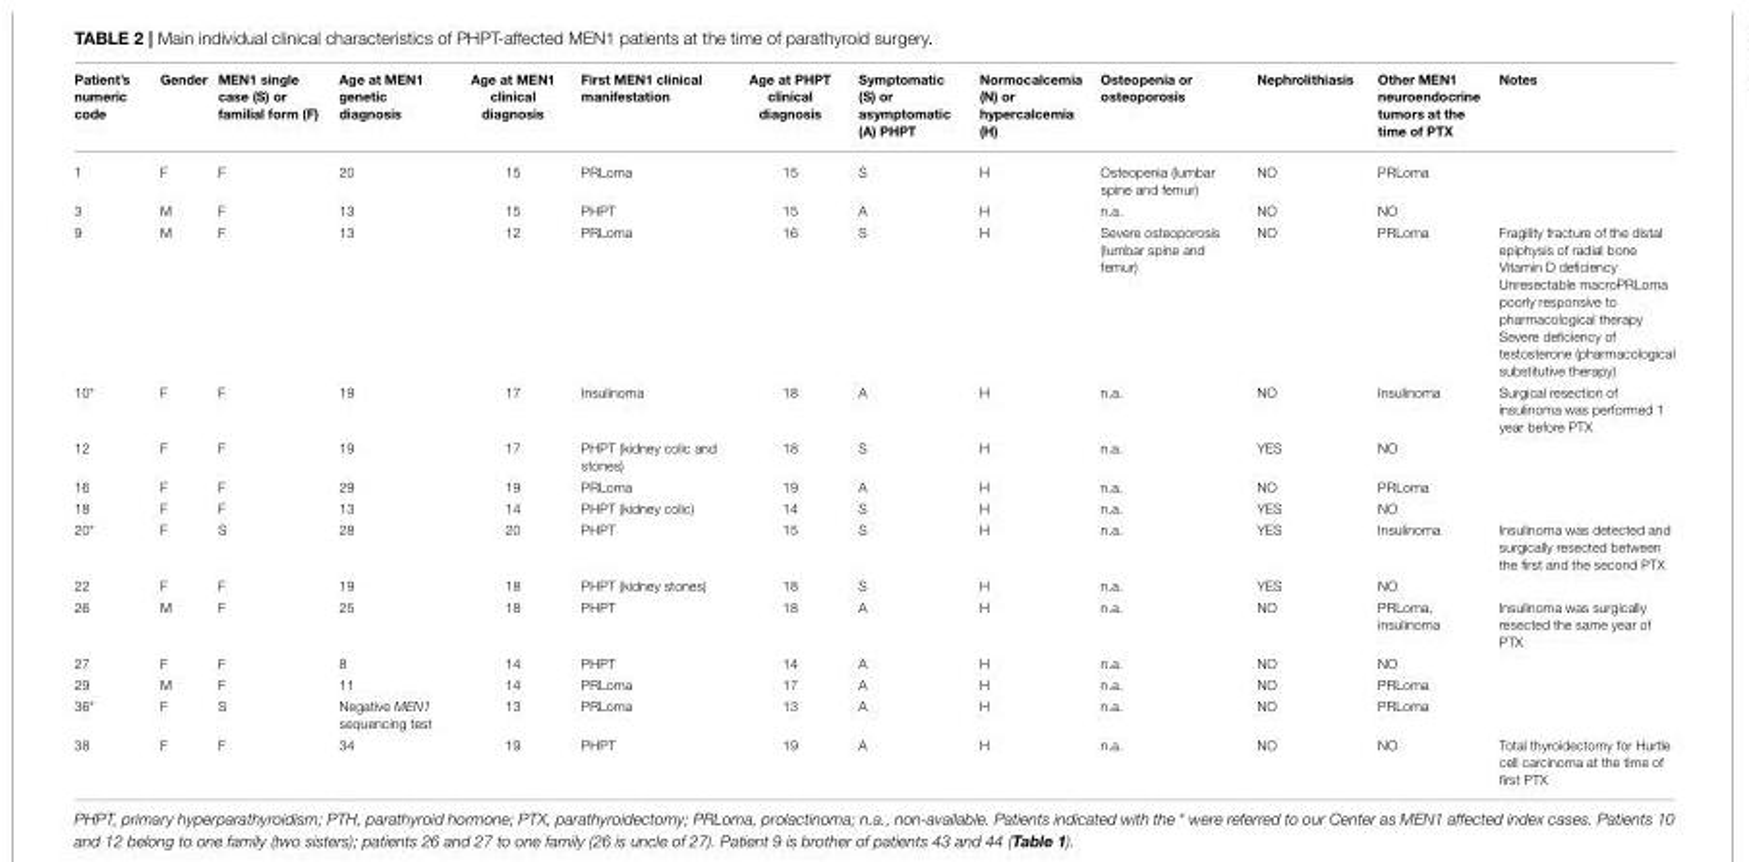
<table><thead><tr><td>Patient’s numeric code</td><td>Gender</td><td>MEN1 single case (S) or familial form (F)</td><td>Age at MEN1 genetic diagnosis</td><td>Age at MEN1 clinical diagnosis</td><td>First MEN1 clinical manifestation</td><td>Age at PHPT clinical diagnosis</td><td>Symptomatic (S) or asymptomatic (A) PHPT</td><td>Normocalcemia (N) or hypercalcemia (H)</td><td>Osteopenia or osteoporosis</td><td>Nephrolithiasis</td><td>Other MEN1 neuroendocrine tumors at the time of PTX</td><td>Notes</td></tr></thead><tbody><tr><td>1</td><td>F</td><td>F</td><td>20</td><td>15</td><td>PRLoma</td><td>15</td><td>S</td><td>H</td><td>Osteopenia (lumbar spine and femur)</td><td>NO</td><td>PRLoma</td><td></td></tr><tr><td>3</td><td>M</td><td>F</td><td>13</td><td>15</td><td>PHPT</td><td>15</td><td>A</td><td>H</td><td>n.a.</td><td>NO</td><td>NO</td><td></td></tr><tr><td>9</td><td>M</td><td>F</td><td>13</td><td>12</td><td>PRLoma</td><td>16</td><td>S</td><td>H</td><td>Severe osteoporosis (lumbar spine and femur)</td><td>NO</td><td>PRLoma</td><td>Fragility fracture of the distal epiphysis of radial bone Vitamin D deficiency Unresectable macroPRLoma poorly responsive to pharmacological therapy Severe deficiency of testosterone (pharmacological substitutive therapy)</td></tr><tr><td>10*</td><td>F</td><td>F</td><td>19</td><td>17</td><td>Insulinoma</td><td>18</td><td>A</td><td>H</td><td>n.a.</td><td>NO</td><td>Insulinoma</td><td>Surgical resection of insulinoma was performed 1 year before PTX</td></tr><tr><td>12</td><td>F</td><td>F</td><td>19</td><td>17</td><td>PHPT (kidney colic and stones)</td><td>18</td><td>S</td><td>H</td><td>n.a.</td><td>YES</td><td>NO</td><td></td></tr><tr><td>16</td><td>F</td><td>F</td><td>29</td><td>19</td><td>PRLoma</td><td>19</td><td>A</td><td>H</td><td>n.a.</td><td>NO</td><td>PRLoma</td><td></td></tr><tr><td>18</td><td>F</td><td>F</td><td>13</td><td>14</td><td>PHPT (kidney colic)</td><td>14</td><td>S</td><td>H</td><td>n.a.</td><td>YES</td><td>NO</td><td></td></tr><tr><td>20*</td><td>F</td><td>S</td><td>28</td><td>20</td><td>PHPT</td><td>15</td><td>S</td><td>H</td><td>n.a.</td><td>YES</td><td>Insulinoma</td><td>Insulinoma was detected and surgically resected between the first and the second PTX</td></tr><tr><td>22</td><td>F</td><td>F</td><td>19</td><td>18</td><td>PHPT (kidney stones)</td><td>18</td><td>S</td><td>H</td><td>n.a.</td><td>YES</td><td>NO</td><td></td></tr><tr><td>26</td><td>M</td><td>F</td><td>25</td><td>18</td><td>PHPT</td><td>18</td><td>A</td><td>H</td><td>n.a.</td><td>NO</td><td>PRLoma, insulinoma</td><td>Insulinoma was surgically resected the same year of PTX</td></tr><tr><td>27</td><td>F</td><td>F</td><td>8</td><td>14</td><td>PHPT</td><td>14</td><td>A</td><td>H</td><td>n.a.</td><td>NO</td><td>NO</td><td></td></tr><tr><td>29</td><td>M</td><td>F</td><td>11</td><td>14</td><td>PRLoma</td><td>17</td><td>A</td><td>H</td><td>n.a.</td><td>NO</td><td>PRLoma</td><td></td></tr><tr><td>36*</td><td>F</td><td>S</td><td>Negative MEN1 sequencing test</td><td>13</td><td>PRLoma</td><td>13</td><td>A</td><td>H</td><td>n.a.</td><td>NO</td><td>PRLoma</td><td></td></tr><tr><td>38</td><td>F</td><td>F</td><td>34</td><td>19</td><td>PHPT</td><td>19</td><td>A</td><td>H</td><td>n.a.</td><td>NO</td><td>NO</td><td>Total thyroidectomy for Hurtle cell carcinoma at the time of first PTX</td></tr></tbody></table>